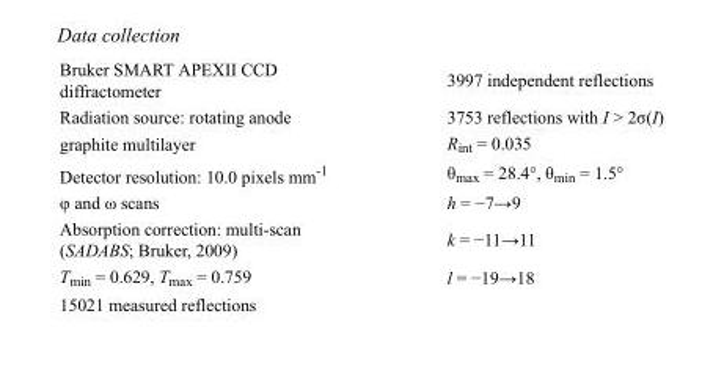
<table><tbody><tr><td>Bruker SMART APEXII CCD diffractometer</td><td>3997 independent reflections</td></tr><tr><td>Radiation source: rotating anode</td><td>3753 reflections with I &gt; 2σ(I)</td></tr><tr><td>graphite multilayer</td><td>R<sub>int</sub> = 0.035</td></tr><tr><td>Detector resolution: 10.0 pixels mm<sup>-1</sup></td><td>θ<sub>max</sub> = 28.4°, θ<sub>min</sub> = 1.5°</td></tr><tr><td>φ and ω scans</td><td>h = −7→9</td></tr><tr><td>Absorption correction: multi-scan (SADABS; Bruker, 2009)</td><td>k = −11→11</td></tr><tr><td>T<sub>min</sub> = 0.629, T<sub>max</sub> = 0.759</td><td>l = −19→18</td></tr><tr><td>15021 measured reflections</td><td></td></tr></tbody></table>